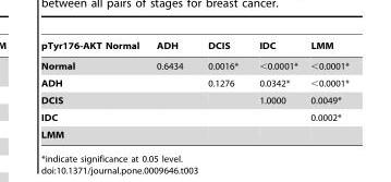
<table><thead><tr><td>pTyr176-AKT</td><td>Normal</td><td>ADH</td><td>DCIS</td><td>IDC</td><td>LMM</td></tr></thead><tbody><tr><td>Normal</td><td></td><td>0.6434</td><td>0.0016*</td><td>&lt;0.0001*</td><td>&lt;0.0001*</td></tr><tr><td>ADH</td><td></td><td></td><td>0.1276</td><td>0.0342*</td><td>&lt;0.0001*</td></tr><tr><td>DCIS</td><td></td><td></td><td></td><td>1.0000</td><td>0.0049*</td></tr><tr><td>IDC</td><td></td><td></td><td></td><td></td><td>0.0002*</td></tr><tr><td>LMM</td><td></td><td></td><td></td><td></td><td></td></tr></tbody></table>